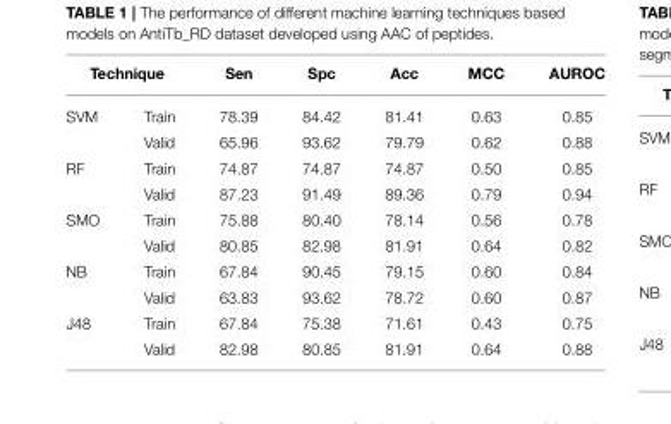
<table><thead><tr><td colspan="2">Technique</td><td rowspan="2">Sen 78.39</td><td rowspan="2">Spc 84.42</td><td rowspan="2">Acc 81.41</td><td rowspan="2">MCC 0.63</td><td rowspan="2">AUROC 0.85</td></tr><tr><td>SVM</td><td>Train</td></tr></thead><tbody><tr><td></td><td>Valid</td><td>65.96</td><td>93.62</td><td>79.79</td><td>0.62</td><td>0.88</td></tr><tr><td rowspan="2">RF</td><td>Train</td><td>74.87</td><td>74.87</td><td>74.87</td><td>0.50</td><td>0.85</td></tr><tr><td>Valid</td><td>87.23</td><td>91.49</td><td>89.36</td><td>0.79</td><td>0.94</td></tr><tr><td rowspan="2">SMO</td><td>Train</td><td>75.88</td><td>80.40</td><td>78.14</td><td>0.56</td><td>0.78</td></tr><tr><td>Valid</td><td>80.85</td><td>82.98</td><td>81.91</td><td>0.64</td><td>0.82</td></tr><tr><td rowspan="2">NB</td><td>Train</td><td>67.84</td><td>90.45</td><td>79.15</td><td>0.60</td><td>0.84</td></tr><tr><td>Valid</td><td>63.83</td><td>93.62</td><td>78.72</td><td>0.60</td><td>0.87</td></tr><tr><td rowspan="2">J48</td><td>Train</td><td>67.84</td><td>75.38</td><td>71.61</td><td>0.43</td><td>0.75</td></tr><tr><td>Valid</td><td>82.98</td><td>80.85</td><td>81.91</td><td>0.64</td><td>0.88</td></tr></tbody></table>